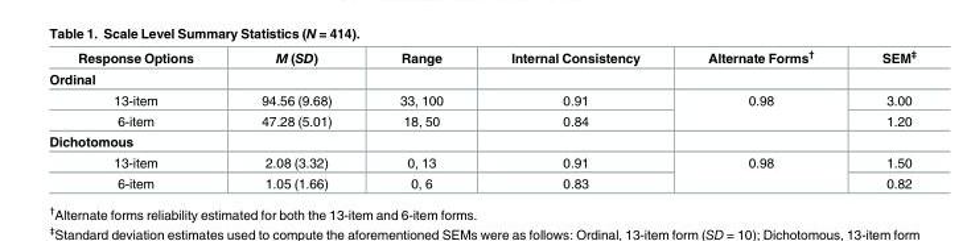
<table><thead><tr><td>Response Options</td><td>M (SD)</td><td>Range</td><td>Internal Consistency</td><td>Alternate Forms<sup>†</sup></td><td>SEM<sup>‡</sup></td></tr></thead><tbody><tr><td colspan="6">Ordinal</td></tr><tr><td>13-item</td><td>94.56 (9.68)</td><td>33, 100</td><td>0.91</td><td rowspan="2">0.98</td><td>3.00</td></tr><tr><td>6-item</td><td>47.28 (5.01)</td><td>18, 50</td><td>0.84</td><td>1.20</td></tr><tr><td colspan="6">Dichotomous</td></tr><tr><td>13-item</td><td>2.08 (3.32)</td><td>0, 13</td><td>0.91</td><td rowspan="2">0.98</td><td>1.50</td></tr><tr><td>6-item</td><td>1.05 (1.66)</td><td>0, 6</td><td>0.83</td><td>0.82</td></tr></tbody></table>